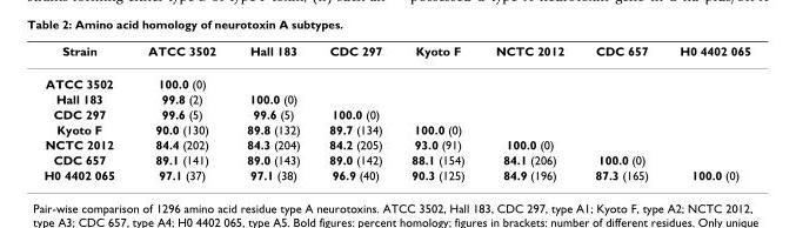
<table><thead><tr><td>Strain</td><td>ATCC 3502</td><td>Hall 183</td><td>CDC 297</td><td>Kyoto F</td><td>NCTC 2012</td><td>CDC 657</td><td>H0 4402 065</td></tr></thead><tbody><tr><td>ATCC 3502</td><td>100.0 (0)</td><td></td><td></td><td></td><td></td><td></td><td></td></tr><tr><td>Hall 183</td><td>99.8 (2)</td><td>100.0 (0)</td><td></td><td></td><td></td><td></td><td></td></tr><tr><td>CDC 297</td><td>99.6 (5)</td><td>99.6 (5)</td><td>100.0 (0)</td><td></td><td></td><td></td><td></td></tr><tr><td>Kyoto F</td><td>90.0 (130)</td><td>89.8 (132)</td><td>89.7 (134)</td><td>100.0 (0)</td><td></td><td></td><td></td></tr><tr><td>NCTC 2012</td><td>84.4 (202)</td><td>84.3 (204)</td><td>84.2 (205)</td><td>93.0 (91)</td><td>100.0 (0)</td><td></td><td></td></tr><tr><td>CDC 657</td><td>89.1 (141)</td><td>89.0 (143)</td><td>89.0 (142)</td><td>88.1 (154)</td><td>84.1 (206)</td><td>100.0 (0)</td><td></td></tr><tr><td>H0 4402 065</td><td>97.1 (37)</td><td>97.1 (38)</td><td>96.9 (40)</td><td>90.3 (125)</td><td>84.9 (196)</td><td>87.3 (165)</td><td>100.0 (0)</td></tr></tbody></table>